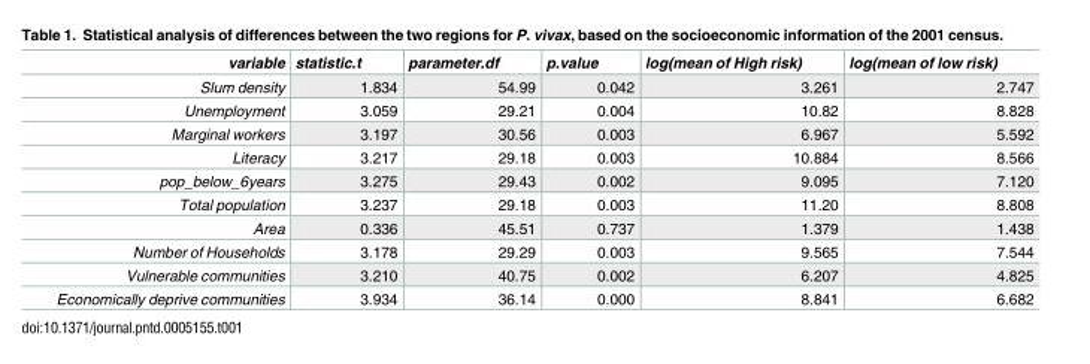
<table><thead><tr><td>variable</td><td>statistic.t</td><td>parameter.df</td><td>p.value</td><td>log(mean of High risk)</td><td>log(mean of low risk)</td></tr></thead><tbody><tr><td>Slum density</td><td>1.834</td><td>54.99</td><td>0.042</td><td>3.261</td><td>2.747</td></tr><tr><td>Unemployment</td><td>3.059</td><td>29.21</td><td>0.004</td><td>10.82</td><td>8.828</td></tr><tr><td>Marginal workers</td><td>3.197</td><td>30.56</td><td>0.003</td><td>6.967</td><td>5.592</td></tr><tr><td>Literacy</td><td>3.217</td><td>29.18</td><td>0.003</td><td>10.884</td><td>8.566</td></tr><tr><td>pop_below_6years</td><td>3.275</td><td>29.43</td><td>0.002</td><td>9.095</td><td>7.120</td></tr><tr><td>Total population</td><td>3.237</td><td>29.18</td><td>0.003</td><td>11.20</td><td>8.808</td></tr><tr><td>Area</td><td>0.336</td><td>45.51</td><td>0.737</td><td>1.379</td><td>1.438</td></tr><tr><td>Number of Households</td><td>3.178</td><td>29.29</td><td>0.003</td><td>9.565</td><td>7.544</td></tr><tr><td>Vulnerable communities</td><td>3.210</td><td>40.75</td><td>0.002</td><td>6.207</td><td>4.825</td></tr><tr><td>Economically deprive communities</td><td>3.934</td><td>36.14</td><td>0.000</td><td>8.841</td><td>6.682</td></tr></tbody></table>